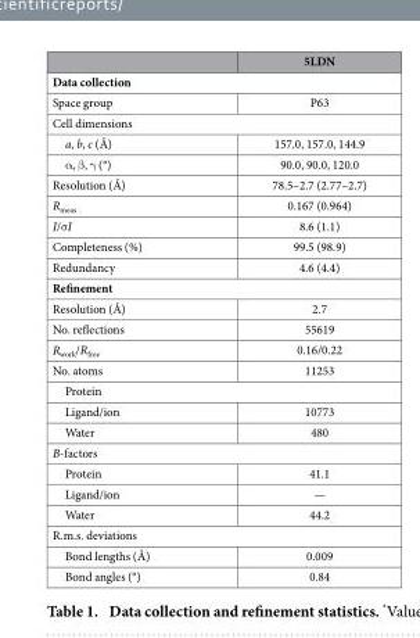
<table><thead><tr><td></td><td>5LDN</td></tr></thead><tbody><tr><td colspan="2">Data collection</td></tr><tr><td>Space group</td><td>P63</td></tr><tr><td colspan="2">Cell dimensions</td></tr><tr><td>a, b, c (Å)</td><td>157.0, 157.0, 144.9</td></tr><tr><td>α , β , γ (°)</td><td>90.0, 90.0, 120.0</td></tr><tr><td>Resolution (Å)</td><td>78.5–2.7 (2.77–2.7)</td></tr><tr><td>R<sub>meas</sub></td><td>0.167 (0.964)</td></tr><tr><td>I/σ I</td><td>8.6 (1.1)</td></tr><tr><td>Completeness (%)</td><td>99.5 (98.9)</td></tr><tr><td>Redundancy</td><td>4.6 (4.4)</td></tr><tr><td colspan="2">Refinement</td></tr><tr><td>Resolution (Å)</td><td>2.7</td></tr><tr><td>No. reflections</td><td>55619</td></tr><tr><td>R<sub>work</sub>/R<sub>free</sub></td><td>0.16/0.22</td></tr><tr><td>No. atoms</td><td>11253</td></tr><tr><td colspan="2">Protein</td></tr><tr><td>Ligand/ion</td><td>10773</td></tr><tr><td>Water</td><td>480</td></tr><tr><td colspan="2">B-factors</td></tr><tr><td>Protein</td><td>41.1</td></tr><tr><td>Ligand/ion</td><td>—</td></tr><tr><td>Water</td><td>44.2</td></tr><tr><td colspan="2">R.m.s. deviations</td></tr><tr><td>Bond lengths (Å)</td><td>0.009</td></tr><tr><td>Bond angles (°)</td><td>0.84</td></tr></tbody></table>